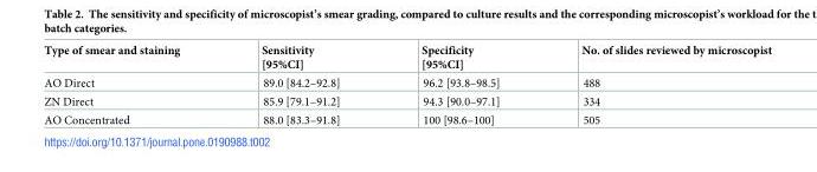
<table><thead><tr><td>Type of smear and staining</td><td>Sensitivity [95%CI]</td><td>Specificity [95%CI]</td><td>No. of slides reviewed by microscopist</td></tr></thead><tbody><tr><td>AO Direct</td><td>89.0 [84.2–92.8]</td><td>96.2 [93.8–98.5]</td><td>488</td></tr><tr><td>ZN Direct</td><td>85.9 [79.1–91.2]</td><td>94.3 [90.0–97.1]</td><td>334</td></tr><tr><td>AO Concentrated</td><td>88.0 [83.3–91.8]</td><td>100 [98.6–100]</td><td>505</td></tr></tbody></table>